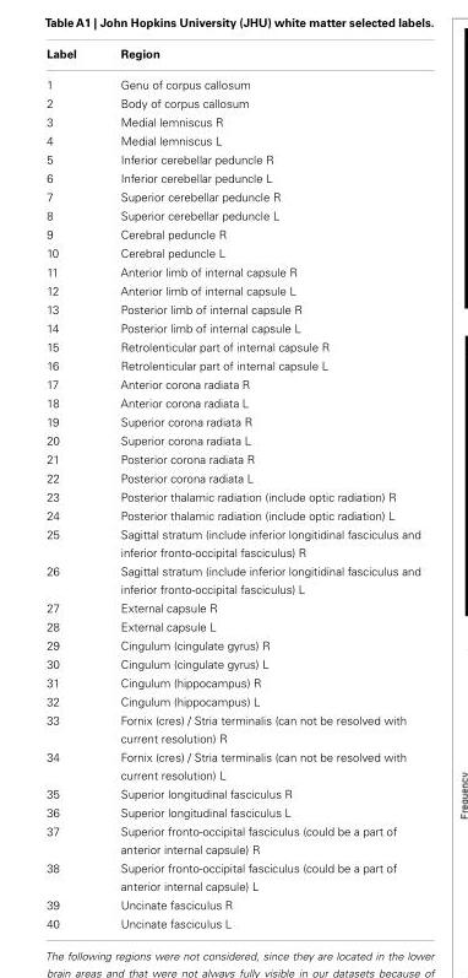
<table><thead><tr><td>Label</td><td>Region</td></tr></thead><tbody><tr><td>1</td><td>Genu of corpus callosum</td></tr><tr><td>2</td><td>Body of corpus callosum</td></tr><tr><td>3</td><td>Medial lemniscus R</td></tr><tr><td>4</td><td>Medial lemniscus L</td></tr><tr><td>5</td><td>Inferior cerebellar peduncle R</td></tr><tr><td>6</td><td>Inferior cerebellar peduncle L</td></tr><tr><td>7</td><td>Superior cerebellar peduncle R</td></tr><tr><td>8</td><td>Superior cerebellar peduncle L</td></tr><tr><td>9</td><td>Cerebral peduncle R</td></tr><tr><td>10</td><td>Cerebral peduncle L</td></tr><tr><td>11</td><td>Anterior limb of internal capsule R</td></tr><tr><td>12</td><td>Anterior limb of internal capsule L</td></tr><tr><td>13</td><td>Posterior limb of internal capsule R</td></tr><tr><td>14</td><td>Posterior limb of internal capsule L</td></tr><tr><td>15</td><td>Retrolenticular part of internal capsule R</td></tr><tr><td>16</td><td>Retrolenticular part of internal capsule L</td></tr><tr><td>17</td><td>Anterior corona radiata R</td></tr><tr><td>18</td><td>Anterior corona radiata L</td></tr><tr><td>19</td><td>Superior corona radiata R</td></tr><tr><td>20</td><td>Superior corona radiata L</td></tr><tr><td>21</td><td>Posterior corona radiata R</td></tr><tr><td>22</td><td>Posterior corona radiata L</td></tr><tr><td>23</td><td>Posterior thalamic radiation (include optic radiation) R</td></tr><tr><td>24</td><td>Posterior thalamic radiation (include optic radiation) L</td></tr><tr><td>25</td><td>Sagittal stratum (include inferior longitidinal fasciculus and inferior fronto-occipital fasciculus) R</td></tr><tr><td>26</td><td>Sagittal stratum (include inferior longitidinal fasciculus and inferior fronto-occipital fasciculus) L</td></tr><tr><td>27</td><td>External capsule R</td></tr><tr><td>28</td><td>External capsule L</td></tr><tr><td>29</td><td>Cingulum (cingulate gyrus) R</td></tr><tr><td>30</td><td>Cingulum (cingulate gyrus) L</td></tr><tr><td>31</td><td>Cingulum (hippocampus) R</td></tr><tr><td>32</td><td>Cingulum (hippocampus) L</td></tr><tr><td>33</td><td>Fornix (cres) / Stria terminalis (can not be resolved with current resolution) R</td></tr><tr><td>34</td><td>Fornix (cres) / Stria terminalis (can not be resolved with current resolution) L</td></tr><tr><td>35</td><td>Superior longitudinal fasciculus R</td></tr><tr><td>36</td><td>Superior longitudinal fasciculus L</td></tr><tr><td>37</td><td>Superior fronto-occipital fasciculus (could be a part of anterior internal capsule) R</td></tr><tr><td>38</td><td>Superior fronto-occipital fasciculus (could be a part of anterior internal capsule) L</td></tr><tr><td>39</td><td>Uncinate fasciculus R</td></tr><tr><td>40</td><td>Uncinate fasciculus L</td></tr></tbody></table>